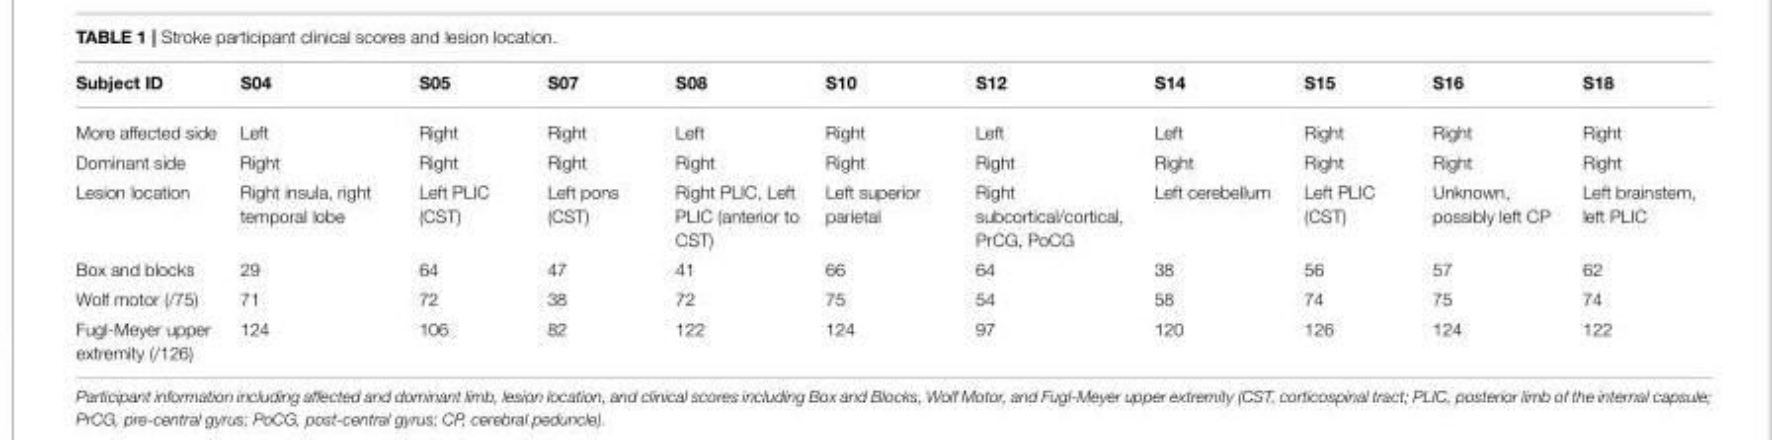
<table><thead><tr><td>Subject ID</td><td>S04</td><td>S05</td><td>S07</td><td>S08</td><td>S10</td><td>S12</td><td>S14</td><td>S15</td><td>S16</td><td>S18</td></tr></thead><tbody><tr><td>More affected side</td><td>Left</td><td>Right</td><td>Right</td><td>Left</td><td>Right</td><td>Left</td><td>Left</td><td>Right</td><td>Right</td><td>Right</td></tr><tr><td>Dominant side</td><td>Right</td><td>Right</td><td>Right</td><td>Right</td><td>Right</td><td>Right</td><td>Right</td><td>Right</td><td>Right</td><td>Right</td></tr><tr><td>Lesion location</td><td>Right insula, right temporal lobe</td><td>Left PLIC (CST)</td><td>Left pons (CST)</td><td>Right PLIC, Left PLIC (anterior to CST)</td><td>Left superior parietal</td><td>Right subcortical/cortical, PrCG, PoCG</td><td>Left cerebellum</td><td>Left PLIC (CST)</td><td>Unknown, possibly left CP</td><td>Left brainstem, left PLIC</td></tr><tr><td>Box and blocks</td><td>29</td><td>64</td><td>47</td><td>41</td><td>66</td><td>64</td><td>38</td><td>56</td><td>57</td><td>62</td></tr><tr><td>Wolf motor (/75)</td><td>71</td><td>72</td><td>38</td><td>72</td><td>75</td><td>54</td><td>58</td><td>74</td><td>75</td><td>74</td></tr><tr><td>Fugl-Meyer upper extremity (/126)</td><td>124</td><td>106</td><td>82</td><td>122</td><td>124</td><td>97</td><td>120</td><td>126</td><td>124</td><td>122</td></tr></tbody></table>